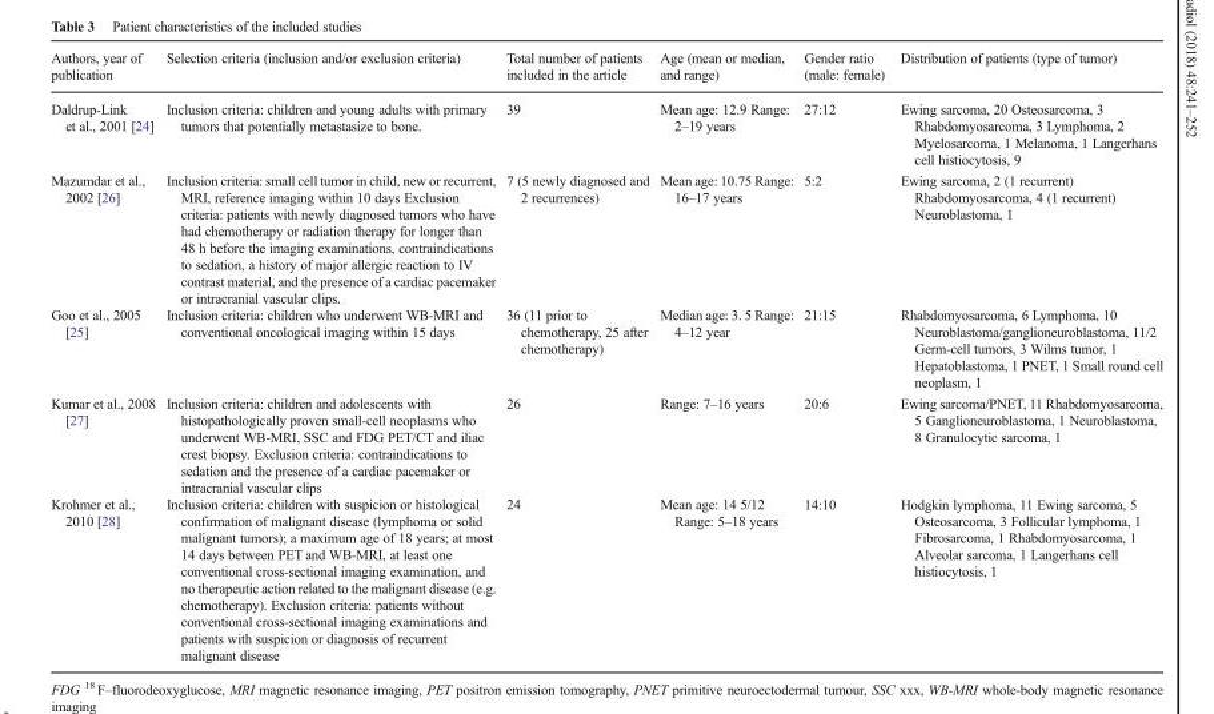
<table><thead><tr><td>Authors, year of publication</td><td>Selection criteria (inclusion and/or exclusion criteria)</td><td>Total number of patients included in the article</td><td>Age (mean or median, and range)</td><td>Gender ratio (male: female)</td><td>Distribution of patients (type of tumor)</td></tr></thead><tbody><tr><td>Daldrup-Link et al., 2001 [24]</td><td>Inclusion criteria: children and young adults with primary tumors that potentially metastasize to bone.</td><td>39</td><td>Mean age: 12.9 Range: 2–19 years</td><td>27:12</td><td>Ewing sarcoma, 20 Osteosarcoma, 3 Rhabdomyosarcoma, 3 Lymphoma, 2 Myelosarcoma, 1 Melanoma, 1 Langerhans cell histiocytosis, 9</td></tr><tr><td>Mazumdar et al., 2002 [26]</td><td>Inclusion criteria: small cell tumor in child, new or recurrent, MRI, reference imaging within 10 days Exclusion criteria: patients with newly diagnosed tumors who have had chemotherapy or radiation therapy for longer than 48 h before the imaging examinations, contraindications to sedation, a history of major allergic reaction to IV contrast material, and the presence of a cardiac pacemaker or intracranial vascular clips.</td><td>7 (5 newly diagnosed and 2 recurrences)</td><td>Mean age: 10.75 Range: 16–17 years</td><td>5:2</td><td>Ewing sarcoma, 2 (1 recurrent) Rhabdomyosarcoma, 4 (1 recurrent) Neuroblastoma, 1</td></tr><tr><td>Goo et al., 2005 [25]</td><td>Inclusion criteria: children who underwent WB-MRI and conventional oncological imaging within 15 days</td><td>36 (11 prior to chemotherapy, 25 after chemotherapy)</td><td>Median age: 3. 5 Range: 4–12 year</td><td>21:15</td><td>Rhabdomyosarcoma, 6 Lymphoma, 10 Neuroblastoma/ganglioneuroblastoma, 11/2 Germ-cell tumors, 3 Wilms tumor, 1 Hepatoblastoma, 1 PNET, 1 Small round cell neoplasm, 1</td></tr><tr><td>Kumar et al., 2008 [27]</td><td>Inclusion criteria: children and adolescents with histopathologically proven small-cell neoplasms who underwent WB-MRI, SSC and FDG PET/CT and iliac crest biopsy. Exclusion criteria: contraindications to sedation and the presence of a cardiac pacemaker or intracranial vascular clips</td><td>26</td><td>Range: 7–16 years</td><td>20:6</td><td>Ewing sarcoma/PNET, 11 Rhabdomyosarcoma, 5 Ganglioneuroblastoma, 1 Neuroblastoma, 8 Granulocytic sarcoma, 1</td></tr><tr><td>Krohmer et al., 2010 [28]</td><td>Inclusion criteria: children with suspicion or histological confirmation of malignant disease (lymphoma or solid malignant tumors); a maximum age of 18 years; at most 14 days between PET and WB-MRI, at least one conventional cross-sectional imaging examination, and no therapeutic action related to the malignant disease (e.g. chemotherapy). Exclusion criteria: patients without conventional cross-sectional imaging examinations and patients with suspicion or diagnosis of recurrent malignant disease</td><td>24</td><td>Mean age: 14 5/12 Range: 5–18 years</td><td>14:10</td><td>Hodgkin lymphoma, 11 Ewing sarcoma, 5 Osteosarcoma, 3 Follicular lymphoma, 1 Fibrosarcoma, 1 Rhabdomyosarcoma, 1 Alveolar sarcoma, 1 Langerhans cell histiocytosis, 1</td></tr></tbody></table>